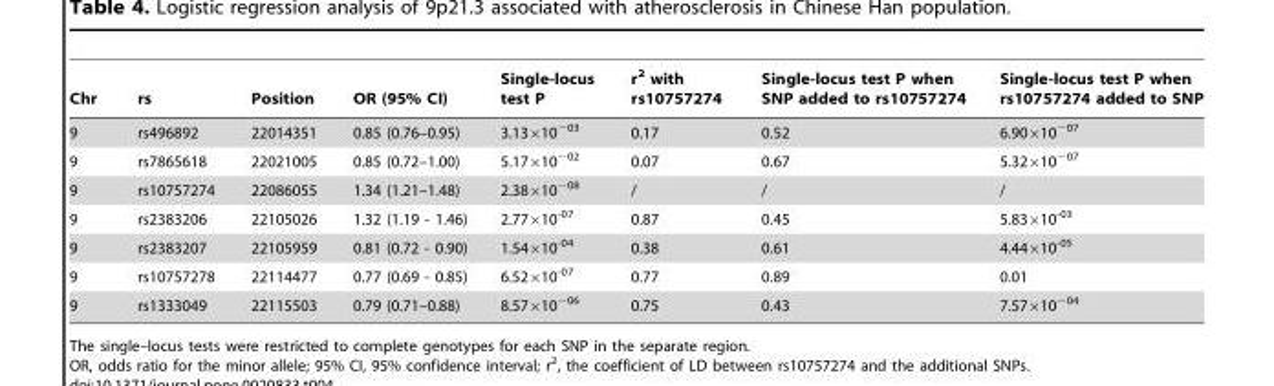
<table><thead><tr><td>Chr</td><td>rs</td><td>Position</td><td>OR (95% CI)</td><td>Single-locus test P</td><td>r<sup>2</sup> with rs10757274</td><td>Single-locus test P when SNP added to rs10757274</td><td>Single-locus test P when rs10757274 added to SNP</td></tr></thead><tbody><tr><td>9</td><td>rs496892</td><td>22014351</td><td>0.85 (0.76–0.95)</td><td>3.13×10<sup>−03</sup></td><td>0.17</td><td>0.52</td><td>6.90×10<sup>−07</sup></td></tr><tr><td>9</td><td>rs7865618</td><td>22021005</td><td>0.85 (0.72–1.00)</td><td>5.17×10<sup>−02</sup></td><td>0.07</td><td>0.67</td><td>5.32×10<sup>−07</sup></td></tr><tr><td>9</td><td>rs10757274</td><td>22086055</td><td>1.34 (1.21–1.48)</td><td>2.38×10<sup>−08</sup></td><td>/</td><td>/</td><td>/</td></tr><tr><td>9</td><td>rs2383206</td><td>22105026</td><td>1.32 (1.19 - 1.46)</td><td>2.77×10<sup>-07</sup></td><td>0.87</td><td>0.45</td><td>5.83×10<sup>-03</sup></td></tr><tr><td>9</td><td>rs2383207</td><td>22105959</td><td>0.81 (0.72 - 0.90)</td><td>1.54×10<sup>-04</sup></td><td>0.38</td><td>0.61</td><td>4.44×10<sup>-05</sup></td></tr><tr><td>9</td><td>rs10757278</td><td>22114477</td><td>0.77 (0.69 - 0.85)</td><td>6.52×10<sup>-07</sup></td><td>0.77</td><td>0.89</td><td>0.01</td></tr><tr><td>9</td><td>rs1333049</td><td>22115503</td><td>0.79 (0.71–0.88)</td><td>8.57×10<sup>−06</sup></td><td>0.75</td><td>0.43</td><td>7.57×10<sup>−04</sup></td></tr></tbody></table>